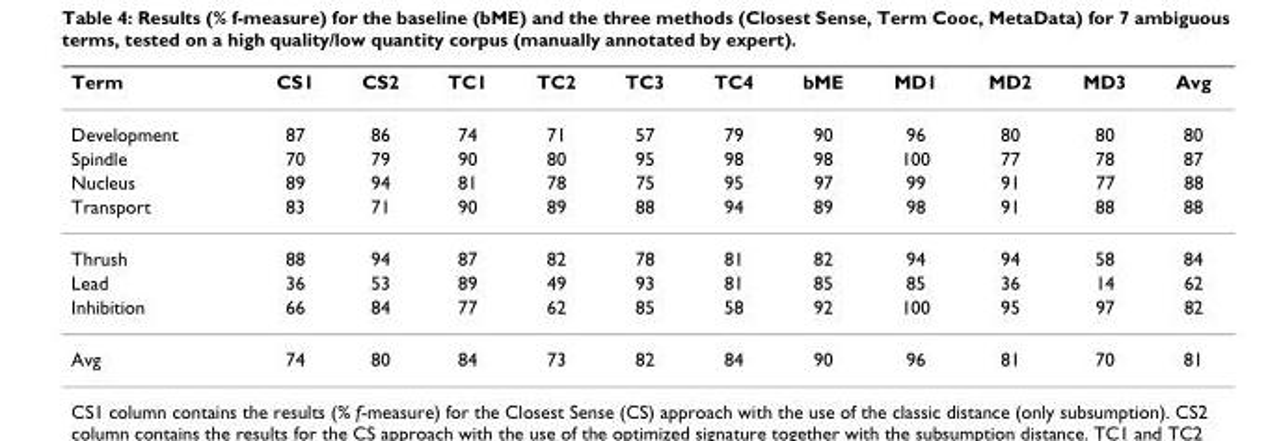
<table><thead><tr><td>Term</td><td>CS1</td><td>CS2</td><td>TC1</td><td>TC2</td><td>TC3</td><td>TC4</td><td>bME</td><td>MD1</td><td>MD2</td><td>MD3</td><td>Avg</td></tr></thead><tbody><tr><td>Development</td><td>87</td><td>86</td><td>74</td><td>71</td><td>57</td><td>79</td><td>90</td><td>96</td><td>80</td><td>80</td><td>80</td></tr><tr><td>Spindle</td><td>70</td><td>79</td><td>90</td><td>80</td><td>95</td><td>98</td><td>98</td><td>100</td><td>77</td><td>78</td><td>87</td></tr><tr><td>Nucleus</td><td>89</td><td>94</td><td>81</td><td>78</td><td>75</td><td>95</td><td>97</td><td>99</td><td>91</td><td>77</td><td>88</td></tr><tr><td>Transport</td><td>83</td><td>71</td><td>90</td><td>89</td><td>88</td><td>94</td><td>89</td><td>98</td><td>91</td><td>88</td><td>88</td></tr><tr><td>Thrush</td><td>88</td><td>94</td><td>87</td><td>82</td><td>78</td><td>81</td><td>82</td><td>94</td><td>94</td><td>58</td><td>84</td></tr><tr><td>Lead</td><td>36</td><td>53</td><td>89</td><td>49</td><td>93</td><td>81</td><td>85</td><td>85</td><td>36</td><td>14</td><td>62</td></tr><tr><td>Inhibition</td><td>66</td><td>84</td><td>77</td><td>62</td><td>85</td><td>58</td><td>92</td><td>100</td><td>95</td><td>97</td><td>82</td></tr><tr><td>Avg</td><td>74</td><td>80</td><td>84</td><td>73</td><td>82</td><td>84</td><td>90</td><td>96</td><td>81</td><td>70</td><td>81</td></tr></tbody></table>